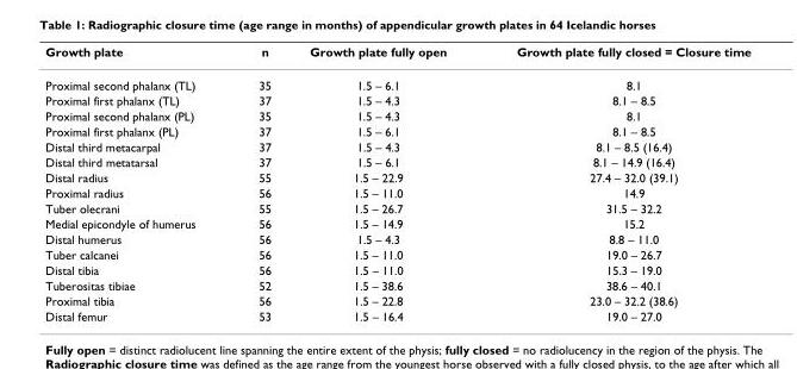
<table><thead><tr><td>Growth plate</td><td>n</td><td>Growth plate fully open</td><td>Growth plate fully closed = Closure time</td></tr></thead><tbody><tr><td>Proximal second phalanx (TL)</td><td>35</td><td>1.5 – 6.1</td><td>8.1</td></tr><tr><td>Proximal first phalanx (TL)</td><td>37</td><td>1.5 – 4.3</td><td>8.1 – 8.5</td></tr><tr><td>Proximal second phalanx (PL)</td><td>35</td><td>1.5 – 4.3</td><td>8.1</td></tr><tr><td>Proximal first phalanx (PL)</td><td>37</td><td>1.5 – 6.1</td><td>8.1 – 8.5</td></tr><tr><td>Distal third metacarpal</td><td>37</td><td>1.5 – 4.3</td><td>8.1 – 8.5 (16.4)</td></tr><tr><td>Distal third metatarsal</td><td>37</td><td>1.5 – 6.1</td><td>8.1 – 14.9 (16.4)</td></tr><tr><td>Distal radius</td><td>55</td><td>1.5 – 22.9</td><td>27.4 – 32.0 (39.1)</td></tr><tr><td>Proximal radius</td><td>56</td><td>1.5 – 11.0</td><td>14.9</td></tr><tr><td>Tuber olecrani</td><td>55</td><td>1.5 – 26.7</td><td>31.5 – 32.2</td></tr><tr><td>Medial epicondyle of humerus</td><td>56</td><td>1.5 – 14.9</td><td>15.2</td></tr><tr><td>Distal humerus</td><td>56</td><td>1.5 – 4.3</td><td>8.8 – 11.0</td></tr><tr><td>Tuber calcanei</td><td>56</td><td>1.5 – 11.0</td><td>19.0 – 26.7</td></tr><tr><td>Distal tibia</td><td>56</td><td>1.5 – 11.0</td><td>15.3 – 19.0</td></tr><tr><td>Tuberositas tibiae</td><td>52</td><td>1.5 – 38.6</td><td>38.6 – 40.1</td></tr><tr><td>Proximal tibia</td><td>56</td><td>1.5 – 22.8</td><td>23.0 – 32.2 (38.6)</td></tr><tr><td>Distal femur</td><td>53</td><td>1.5 – 16.4</td><td>19.0 – 27.0</td></tr></tbody></table>